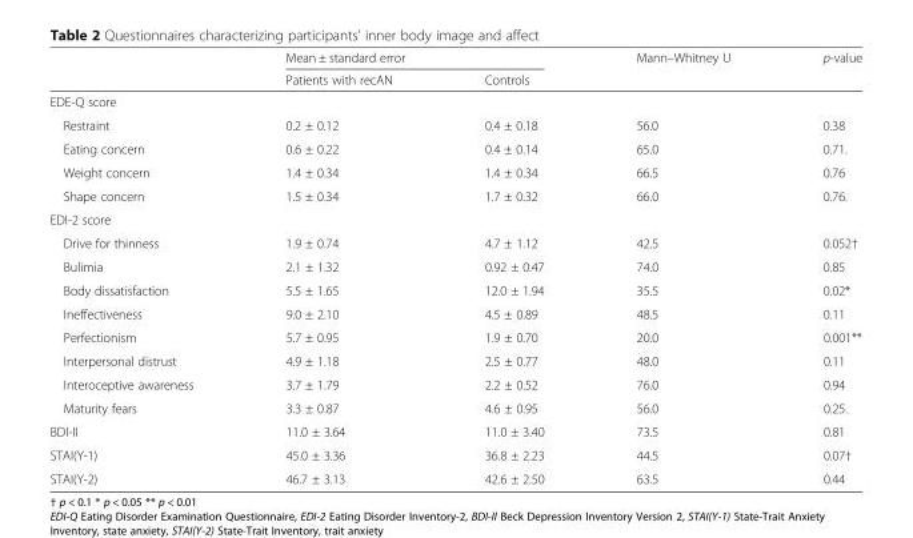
<table><thead><tr><td rowspan="2"></td><td colspan="2">Mean ± standard error</td><td rowspan="2">Mann–Whitney U</td><td rowspan="2">p-value</td></tr><tr><td>Patients with recAN</td><td>Controls</td></tr></thead><tbody><tr><td colspan="5">EDE-Q score</td></tr><tr><td>Restraint</td><td>0.2 ± 0.12</td><td>0.4 ± 0.18</td><td>56.0</td><td>0.38</td></tr><tr><td>Eating concern</td><td>0.6 ± 0.22</td><td>0.4 ± 0.14</td><td>65.0</td><td>0.71.</td></tr><tr><td>Weight concern</td><td>1.4 ± 0.34</td><td>1.4 ± 0.34</td><td>66.5</td><td>0.76</td></tr><tr><td>Shape concern</td><td>1.5 ± 0.34</td><td>1.7 ± 0.32</td><td>66.0</td><td>0.76.</td></tr><tr><td colspan="5">EDI-2 score</td></tr><tr><td>Drive for thinness</td><td>1.9 ± 0.74</td><td>4.7 ± 1.12</td><td>42.5</td><td>0.052†</td></tr><tr><td>Bulimia</td><td>2.1 ± 1.32</td><td>0.92 ± 0.47</td><td>74.0</td><td>0.85</td></tr><tr><td>Body dissatisfaction</td><td>5.5 ± 1.65</td><td>12.0 ± 1.94</td><td>35.5</td><td>0.02*</td></tr><tr><td>Ineffectiveness</td><td>9.0 ± 2.10</td><td>4.5 ± 0.89</td><td>48.5</td><td>0.11</td></tr><tr><td>Perfectionism</td><td>5.7 ± 0.95</td><td>1.9 ± 0.70</td><td>20.0</td><td>0.001**</td></tr><tr><td>Interpersonal distrust</td><td>4.9 ± 1.18</td><td>2.5 ± 0.77</td><td>48.0</td><td>0.11</td></tr><tr><td>Interoceptive awareness</td><td>3.7 ± 1.79</td><td>2.2 ± 0.52</td><td>76.0</td><td>0.94</td></tr><tr><td>Maturity fears</td><td>3.3 ± 0.87</td><td>4.6 ± 0.95</td><td>56.0</td><td>0.25.</td></tr><tr><td>BDI-II</td><td>11.0 ± 3.64</td><td>11.0 ± 3.40</td><td>73.5</td><td>0.81</td></tr><tr><td>STAI(Y-1)</td><td>45.0 ± 3.36</td><td>36.8 ± 2.23</td><td>44.5</td><td>0.07†</td></tr><tr><td>STAI(Y-2)</td><td>46.7 ± 3.13</td><td>42.6 ± 2.50</td><td>63.5</td><td>0.44</td></tr></tbody></table>